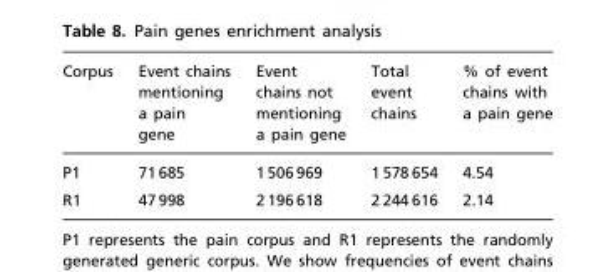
<table><thead><tr><td>Corpus</td><td>Event chains mentioning a pain gene</td><td>Event chains not mentioning a pain gene</td><td>Total event chains</td><td>% of event chains with a pain gene</td></tr></thead><tbody><tr><td>P1</td><td>71 685</td><td>1 506 969</td><td>1 578 654</td><td>4.54</td></tr><tr><td>R1</td><td>47 998</td><td>2 196 618</td><td>2 244 616</td><td>2.14</td></tr></tbody></table>